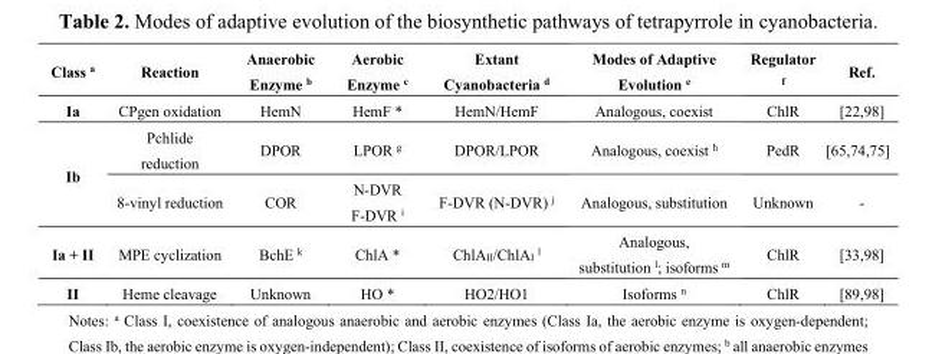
<table><thead><tr><td>Class <sup>a</sup></td><td>Reaction</td><td>Anaerobic Enzyme <sup>b</sup></td><td>Aerobic Enzyme <sup>c</sup></td><td>Extant Cyanobacteria <sup>d</sup></td><td>Modes of Adaptive Evolution <sup>e</sup></td><td>Regulator <sup>f</sup></td><td>Ref.</td></tr></thead><tbody><tr><td>Ia</td><td>CPgen oxidation</td><td>HemN</td><td>HemF *</td><td>HemN/HemF</td><td>Analogous, coexist</td><td>ChlR</td><td>[22,98]</td></tr><tr><td rowspan="2">Ib</td><td>Pchlide reduction</td><td>DPOR</td><td>LPOR <sup>g</sup></td><td>DPOR/LPOR</td><td>Analogous, coexist <sup>h</sup></td><td>PedR</td><td>[65,74,75]</td></tr><tr><td>8-vinyl reduction</td><td>COR</td><td>N-DVR F-DVR <sup>i</sup></td><td>F-DVR (N-DVR) <sup>j</sup></td><td>Analogous, substitution</td><td>Unknown</td><td>-</td></tr><tr><td>Ia + II</td><td>MPE cyclization</td><td>BchE <sup>k</sup></td><td>ChlA *</td><td>ChlA<sub>II</sub>/ChlA<sub>I</sub> <sup>l</sup></td><td>Analogous, substitution <sup>l</sup>; isoforms <sup>m</sup></td><td>ChlR</td><td>[33,98]</td></tr><tr><td>II</td><td>Heme cleavage</td><td>Unknown</td><td>HO *</td><td>HO2/HO1</td><td>Isoforms <sup>n</sup></td><td>ChlR</td><td>[89,98]</td></tr></tbody></table>